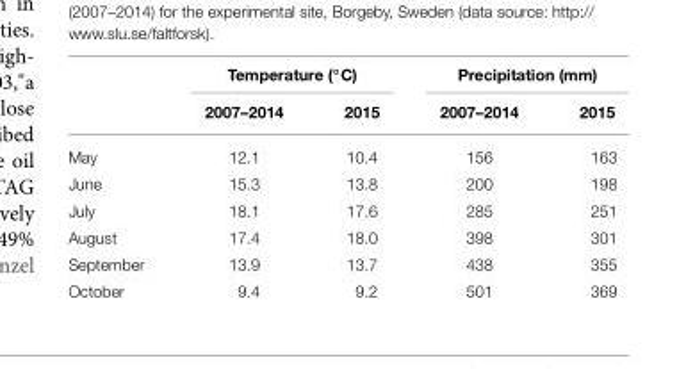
<table><thead><tr><td rowspan="2"></td><td colspan="2">Temperature (◦C)</td><td colspan="2">Precipitation (mm)</td></tr><tr><td>2007–2014</td><td>2015</td><td>2007–2014</td><td>2015</td></tr></thead><tbody><tr><td>May</td><td>12.1</td><td>10.4</td><td>156</td><td>163</td></tr><tr><td>June</td><td>15.3</td><td>13.8</td><td>200</td><td>198</td></tr><tr><td>July</td><td>18.1</td><td>17.6</td><td>285</td><td>251</td></tr><tr><td>August</td><td>17.4</td><td>18.0</td><td>398</td><td>301</td></tr><tr><td>September</td><td>13.9</td><td>13.7</td><td>438</td><td>355</td></tr><tr><td>October</td><td>9.4</td><td>9.2</td><td>501</td><td>369</td></tr></tbody></table>